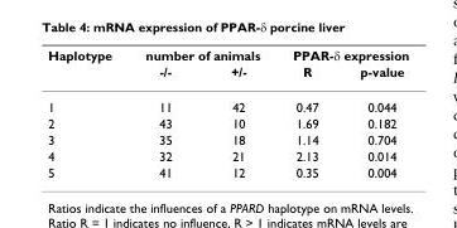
<table><thead><tr><td rowspan="2">Haplotype</td><td colspan="2">number of animals</td><td colspan="2">PPAR-δ expression</td></tr><tr><td>-/-</td><td>+/-</td><td>R</td><td>p-value</td></tr></thead><tbody><tr><td>1</td><td>11</td><td>42</td><td>0.47</td><td>0.044</td></tr><tr><td>2</td><td>43</td><td>10</td><td>1.69</td><td>0.182</td></tr><tr><td>3</td><td>35</td><td>18</td><td>1.14</td><td>0.704</td></tr><tr><td>4</td><td>32</td><td>21</td><td>2.13</td><td>0.014</td></tr><tr><td>5</td><td>41</td><td>12</td><td>0.35</td><td>0.004</td></tr></tbody></table>